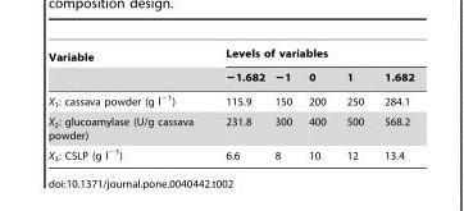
<table><thead><tr><td rowspan="2">Variable</td><td colspan="5">Levels of variables</td></tr><tr><td>−1.682</td><td>−1</td><td>0</td><td>1</td><td>1.682</td></tr></thead><tbody><tr><td>X<sub>1</sub>: cassava powder (g l<sup>−1</sup>)</td><td>115.9</td><td>150</td><td>200</td><td>250</td><td>284.1</td></tr><tr><td>X<sub>2</sub>: glucoamylase (U/g cassava powder)</td><td>231.8</td><td>300</td><td>400</td><td>500</td><td>568.2</td></tr><tr><td>X<sub>3</sub>: CSLP (g l<sup>−1</sup>)</td><td>6.6</td><td>8</td><td>10</td><td>12</td><td>13.4</td></tr></tbody></table>